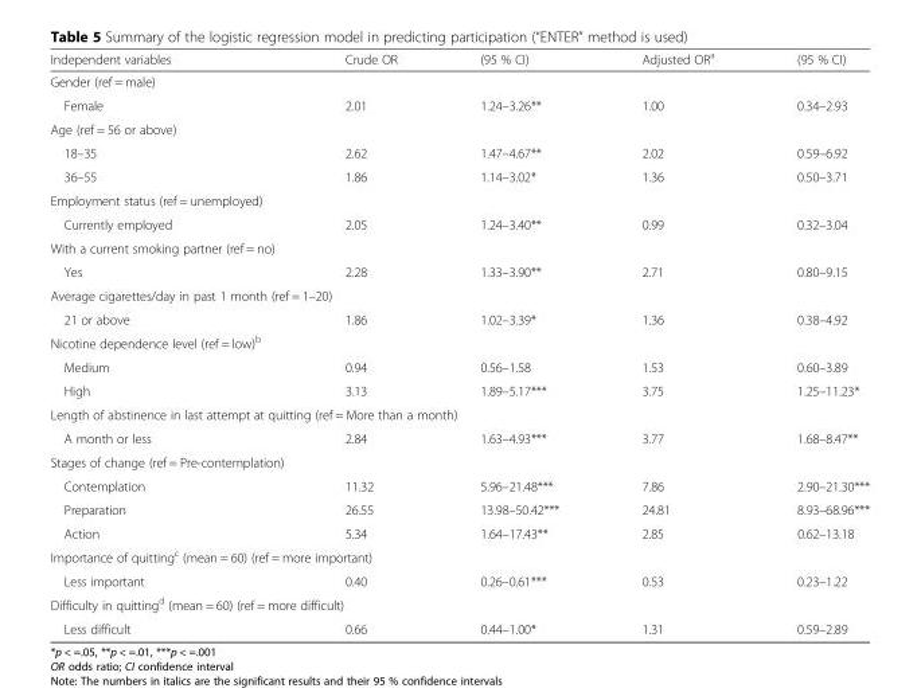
<table><thead><tr><td>Independent variables</td><td>Crude OR</td><td>(95 % CI)</td><td>Adjusted OR<sup>a</sup></td><td>(95 % CI)</td></tr></thead><tbody><tr><td colspan="5">Gender (ref = male)</td></tr><tr><td>Female</td><td>2.01</td><td>1.24–3.26**</td><td>1.00</td><td>0.34–2.93</td></tr><tr><td colspan="5">Age (ref = 56 or above)</td></tr><tr><td>18–35</td><td>2.62</td><td>1.47–4.67**</td><td>2.02</td><td>0.59–6.92</td></tr><tr><td>36–55</td><td>1.86</td><td>1.14–3.02*</td><td>1.36</td><td>0.50–3.71</td></tr><tr><td colspan="5">Employment status (ref = unemployed)</td></tr><tr><td>Currently employed</td><td>2.05</td><td>1.24–3.40**</td><td>0.99</td><td>0.32–3.04</td></tr><tr><td colspan="5">With a current smoking partner (ref = no)</td></tr><tr><td>Yes</td><td>2.28</td><td>1.33–3.90**</td><td>2.71</td><td>0.80–9.15</td></tr><tr><td colspan="5">Average cigarettes/day in past 1 month (ref = 1–20)</td></tr><tr><td>21 or above</td><td>1.86</td><td>1.02–3.39*</td><td>1.36</td><td>0.38–4.92</td></tr><tr><td colspan="5">Nicotine dependence level (ref = low)<sup>b</sup></td></tr><tr><td>Medium</td><td>0.94</td><td>0.56–1.58</td><td>1.53</td><td>0.60–3.89</td></tr><tr><td>High</td><td>3.13</td><td>1.89–5.17***</td><td>3.75</td><td>1.25–11.23*</td></tr><tr><td colspan="5">Length of abstinence in last attempt at quitting (ref = More than a month)</td></tr><tr><td>A month or less</td><td>2.84</td><td>1.63–4.93***</td><td>3.77</td><td>1.68–8.47**</td></tr><tr><td colspan="5">Stages of change (ref = Pre-contemplation)</td></tr><tr><td>Contemplation</td><td>11.32</td><td>5.96–21.48***</td><td>7.86</td><td>2.90–21.30***</td></tr><tr><td>Preparation</td><td>26.55</td><td>13.98–50.42***</td><td>24.81</td><td>8.93–68.96***</td></tr><tr><td>Action</td><td>5.34</td><td>1.64–17.43**</td><td>2.85</td><td>0.62–13.18</td></tr><tr><td colspan="5">Importance of quitting<sup>c</sup> (mean = 60) (ref = more important)</td></tr><tr><td>Less important</td><td>0.40</td><td>0.26–0.61***</td><td>0.53</td><td>0.23–1.22</td></tr><tr><td colspan="5">Difficulty in quitting<sup>d</sup> (mean = 60) (ref = more difficult)</td></tr><tr><td>Less difficult</td><td>0.66</td><td>0.44–1.00*</td><td>1.31</td><td>0.59–2.89</td></tr></tbody></table>